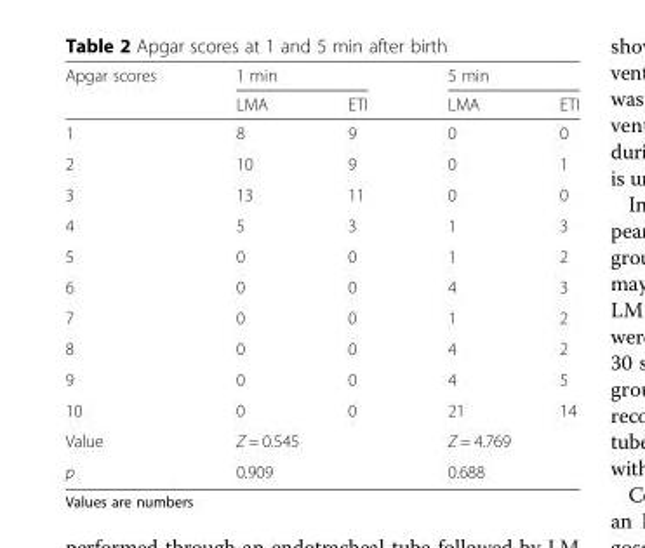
<table><thead><tr><td rowspan="2">Apgar scores</td><td colspan="2">1 min</td><td colspan="2">5 min</td></tr><tr><td>LMA</td><td>ETI</td><td>LMA</td><td>ETI</td></tr></thead><tbody><tr><td>1</td><td>8</td><td>9</td><td>0</td><td>0</td></tr><tr><td>2</td><td>10</td><td>9</td><td>0</td><td>1</td></tr><tr><td>3</td><td>13</td><td>11</td><td>0</td><td>0</td></tr><tr><td>4</td><td>5</td><td>3</td><td>1</td><td>3</td></tr><tr><td>5</td><td>0</td><td>0</td><td>1</td><td>2</td></tr><tr><td>6</td><td>0</td><td>0</td><td>4</td><td>3</td></tr><tr><td>7</td><td>0</td><td>0</td><td>1</td><td>2</td></tr><tr><td>8</td><td>0</td><td>0</td><td>4</td><td>2</td></tr><tr><td>9</td><td>0</td><td>0</td><td>4</td><td>5</td></tr><tr><td>10</td><td>0</td><td>0</td><td>21</td><td>14</td></tr><tr><td>Value</td><td colspan="2">Z = 0.545</td><td colspan="2">Z = 4.769</td></tr><tr><td>p</td><td colspan="2">0.909</td><td colspan="2">0.688</td></tr></tbody></table>